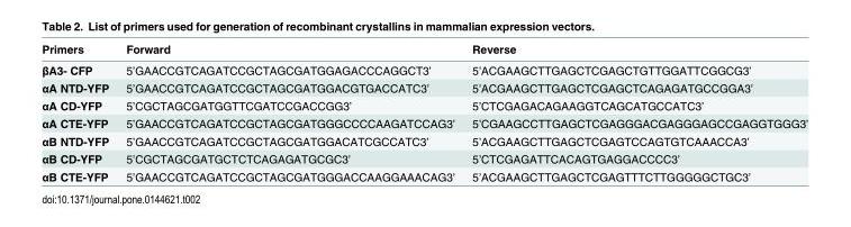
<table><thead><tr><td>Primers</td><td>Forward</td><td>Reverse</td></tr></thead><tbody><tr><td>βA3- CFP</td><td>5’GAACCGTCAGATCCGCTAGCGATGGAGACCCAGGCT3’</td><td>5’ACGAAGCTTGAGCTCGAGCTGTTGGATTCGGCG3’</td></tr><tr><td>αA NTD-YFP</td><td>5’GAACCGTCAGATCCGCTAGCGATGGACGTGACCATC3’</td><td>5’ACGAAGCTTGAGCTCGAGCTCAGAGATGCCGGA3’</td></tr><tr><td>αA CD-YFP</td><td>5’CGCTAGCGATGGTTCGATCCGACCGG3’</td><td>5’CTCGAGACAGAAGGTCAGCATGCCATC3’</td></tr><tr><td>αA CTE-YFP</td><td>5’GAACCGTCAGATCCGCTAGCGATGGGCCCCAAGATCCAG3’</td><td>5’CGAAGCCTTGAGCTCGAGGGACGAGGGAGCCGAGGTGGG3’</td></tr><tr><td>αB NTD-YFP</td><td>5’GAACCGTCAGATCCGCTAGCGATGGACATCGCCATC3’</td><td>5’ACGAAGCTTGAGCTCGAGTCCAGTGTCAAACCA3’</td></tr><tr><td>αB CD-YFP</td><td>5’CGCTAGCGATGCTCTCAGAGATGCGC3’</td><td>5’CTCGAGATTCACAGTGAGGACCCC3’</td></tr><tr><td>αB CTE-YFP</td><td>5’GAACCGTCAGATCCGCTAGCGATGGGACCAAGGAAACAG3’</td><td>5’ACGAAGCTTGAGCTCGAGTTTCTTGGGGGCTGC3’</td></tr></tbody></table>